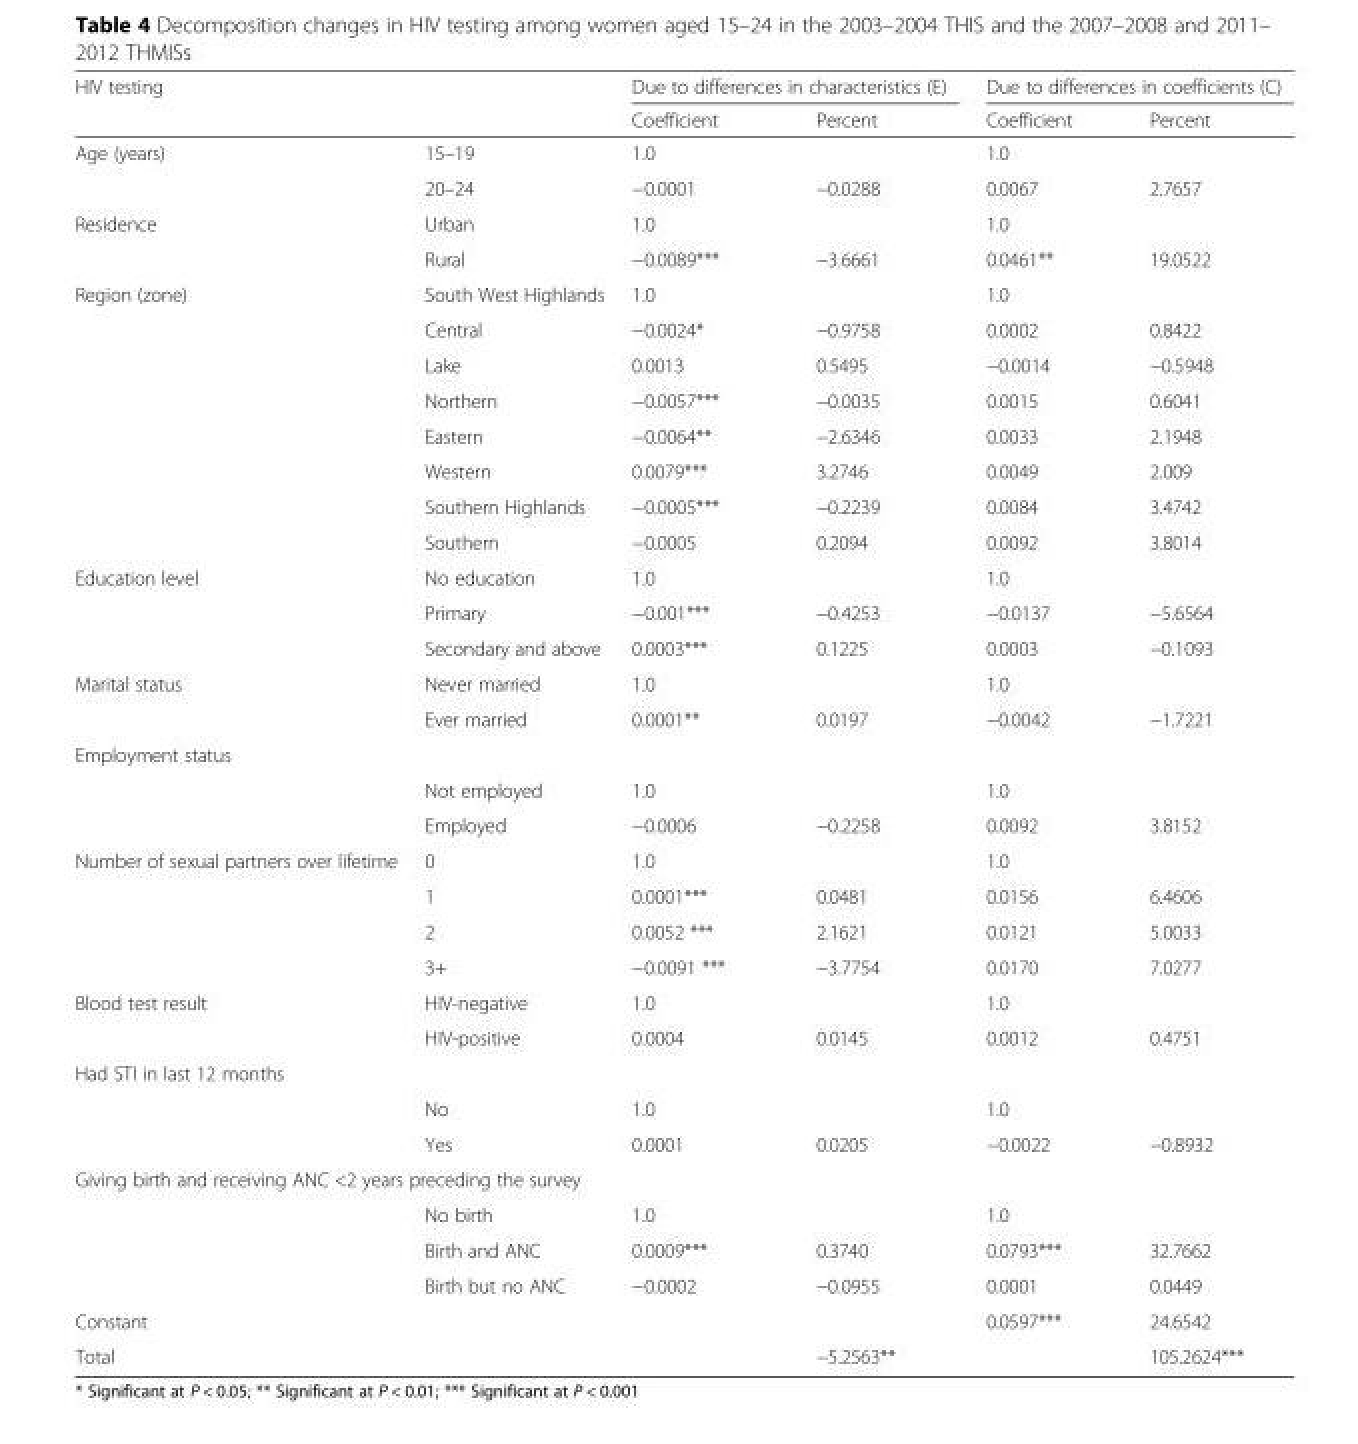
<table><thead><tr><td rowspan="2">HIV testing</td><td rowspan="2"></td><td colspan="2">Due to differences in characteristics (E)</td><td colspan="2">Due to differences in coefficients (C)</td></tr><tr><td>Coefficient</td><td>Percent</td><td>Coefficient</td><td>Percent</td></tr></thead><tbody><tr><td rowspan="2">Age (years)</td><td>15–19</td><td>1.0</td><td></td><td>1.0</td><td></td></tr><tr><td>20–24</td><td>−0.0001</td><td>−0.0288</td><td>0.0067</td><td>2.7657</td></tr><tr><td rowspan="2">Residence</td><td>Urban</td><td>1.0</td><td></td><td>1.0</td><td></td></tr><tr><td>Rural</td><td>−0.0089***</td><td>−3.6661</td><td>0.0461**</td><td>19.0522</td></tr><tr><td rowspan="8">Region (zone)</td><td>South West Highlands</td><td>1.0</td><td></td><td>1.0</td><td></td></tr><tr><td>Central</td><td>−0.0024*</td><td>−0.9758</td><td>0.0002</td><td>0.8422</td></tr><tr><td>Lake</td><td>0.0013</td><td>0.5495</td><td>−0.0014</td><td>−0.5948</td></tr><tr><td>Northern</td><td>−0.0057***</td><td>−0.0035</td><td>0.0015</td><td>0.6041</td></tr><tr><td>Eastern</td><td>−0.0064**</td><td>−2.6346</td><td>0.0033</td><td>2.1948</td></tr><tr><td>Western</td><td>0.0079***</td><td>3.2746</td><td>0.0049</td><td>2.009</td></tr><tr><td>Southern Highlands</td><td>−0.0005***</td><td>−0.2239</td><td>0.0084</td><td>3.4742</td></tr><tr><td>Southern</td><td>−0.0005</td><td>0.2094</td><td>0.0092</td><td>3.8014</td></tr><tr><td rowspan="3">Education level</td><td>No education</td><td>1.0</td><td></td><td>1.0</td><td></td></tr><tr><td>Primary</td><td>−0.001***</td><td>−0.4253</td><td>−0.0137</td><td>−5.6564</td></tr><tr><td>Secondary and above</td><td>0.0003***</td><td>0.1225</td><td>0.0003</td><td>−0.1093</td></tr><tr><td rowspan="2">Marital status</td><td>Never married</td><td>1.0</td><td></td><td>1.0</td><td></td></tr><tr><td>Ever married</td><td>0.0001**</td><td>0.0197</td><td>−0.0042</td><td>−1.7221</td></tr><tr><td colspan="6">Employment status</td></tr><tr><td></td><td>Not employed</td><td>1.0</td><td></td><td>1.0</td><td></td></tr><tr><td></td><td>Employed</td><td>−0.0006</td><td>−0.2258</td><td>0.0092</td><td>3.8152</td></tr><tr><td rowspan="4">Number of sexual partners over lifetime</td><td>0</td><td>1.0</td><td></td><td>1.0</td><td></td></tr><tr><td>1</td><td>0.0001***</td><td>0.0481</td><td>0.0156</td><td>6.4606</td></tr><tr><td>2</td><td>0.0052 ***</td><td>2.1621</td><td>0.0121</td><td>5.0033</td></tr><tr><td>3+</td><td>−0.0091 ***</td><td>−3.7754</td><td>0.0170</td><td>7.0277</td></tr><tr><td rowspan="2">Blood test result</td><td>HIV-negative</td><td>1.0</td><td></td><td>1.0</td><td></td></tr><tr><td>HIV-positive</td><td>0.0004</td><td>0.0145</td><td>0.0012</td><td>0.4751</td></tr><tr><td colspan="6">Had STI in last 12 months</td></tr><tr><td></td><td>No</td><td>1.0</td><td></td><td>1.0</td><td></td></tr><tr><td></td><td>Yes</td><td>0.0001</td><td>0.0205</td><td>−0.0022</td><td>−0.8932</td></tr><tr><td colspan="6">Giving birth and receiving ANC &lt;2 years preceding the survey</td></tr><tr><td></td><td>No birth</td><td>1.0</td><td></td><td>1.0</td><td></td></tr><tr><td></td><td>Birth and ANC</td><td>0.0009***</td><td>0.3740</td><td>0.0793***</td><td>32.7662</td></tr><tr><td></td><td>Birth but no ANC</td><td>−0.0002</td><td>−0.0955</td><td>0.0001</td><td>0.0449</td></tr><tr><td>Constant</td><td></td><td></td><td></td><td>0.0597***</td><td>24.6542</td></tr><tr><td>Total</td><td></td><td></td><td>−5.2563**</td><td></td><td>105.2624***</td></tr></tbody></table>